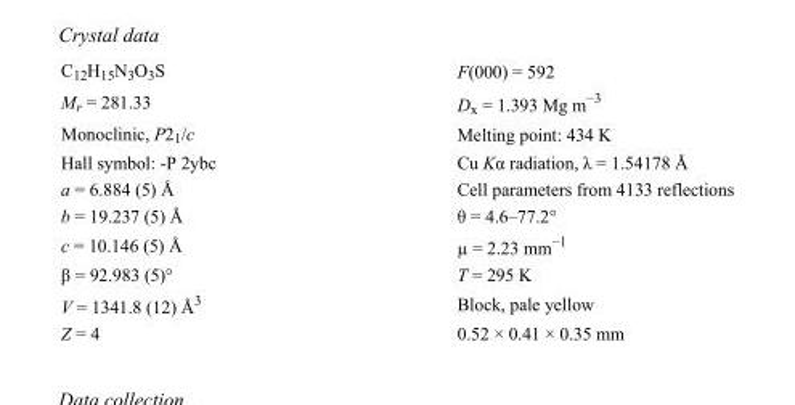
<table><tbody><tr><td>C<sub>12</sub>H<sub>15</sub>N<sub>3</sub>O<sub>3</sub>S</td><td>F(000) = 592</td></tr><tr><td>M<sub>r</sub> = 281.33</td><td>D<sub>x</sub> = 1.393 Mg m<sup>−3</sup></td></tr><tr><td>Monoclinic, P2<sub>1</sub>/c</td><td>Melting point: 434 K</td></tr><tr><td>Hall symbol: -P 2ybc</td><td>Cu Kα radiation, λ = 1.54178 Å</td></tr><tr><td>a = 6.884 (5) Å</td><td>Cell parameters from 4133 reflections</td></tr><tr><td>b = 19.237 (5) Å</td><td>θ = 4.6–77.2°</td></tr><tr><td>c = 10.146 (5) Å</td><td>µ = 2.23 mm<sup>−1</sup></td></tr><tr><td>β = 92.983 (5)°</td><td>T = 295 K</td></tr><tr><td>V = 1341.8 (12) Å<sup>3</sup></td><td>Block, pale yellow</td></tr><tr><td>Z = 4</td><td>0.52 × 0.41 × 0.35 mm</td></tr></tbody></table>